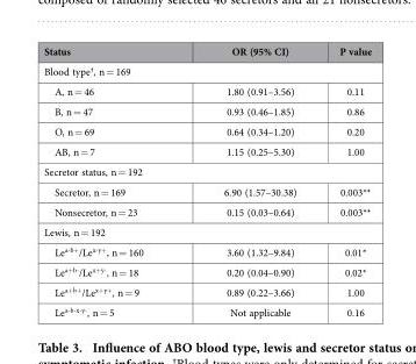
<table><thead><tr><td>Status</td><td>OR (95% CI)</td><td>P value</td></tr></thead><tbody><tr><td colspan="3">Blood type†, n = 169</td></tr><tr><td>A, n = 46</td><td>1.80 (0.91–3.56)</td><td>0.11</td></tr><tr><td>B, n = 47</td><td>0.93 (0.46–1.85)</td><td>0.86</td></tr><tr><td>O, n = 69</td><td>0.64 (0.34–1.20)</td><td>0.20</td></tr><tr><td>AB, n = 7</td><td>1.15 (0.25–5.30)</td><td>1.00</td></tr><tr><td colspan="3">Secretor status, n = 192</td></tr><tr><td>Secretor, n = 169</td><td>6.90 (1.57–30.38)</td><td>0.003**</td></tr><tr><td>Nonsecretor, n = 23</td><td>0.15 (0.03–0.64)</td><td>0.003**</td></tr><tr><td colspan="3">Lewis, n = 192</td></tr><tr><td>Le<sup>a-b+</sup>/Le<sup>x-y+</sup>, n = 160</td><td>3.60 (1.32–9.84)</td><td>0.01*</td></tr><tr><td>Le<sup>a+b-</sup>/Le<sup>x+y-</sup>, n = 18</td><td>0.20 (0.04–0.90)</td><td>0.02*</td></tr><tr><td>Le<sup>a+b+</sup>/Le<sup>x+y+</sup>, n = 9</td><td>0.89 (0.22–3.66)</td><td>1.00</td></tr><tr><td>Le<sup>a-b-x-y-</sup>, n = 5</td><td>Not applicable</td><td>0.16</td></tr></tbody></table>